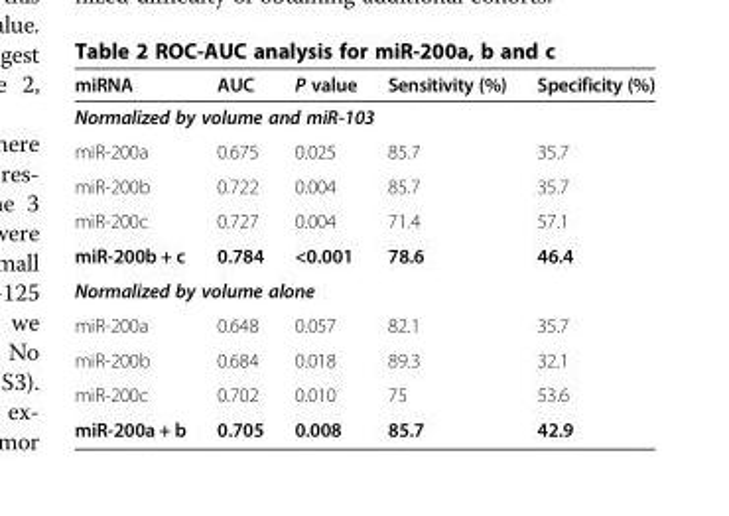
<table><thead><tr><td>miRNA</td><td>AUC</td><td>P value</td><td>Sensitivity (%)</td><td>Specificity (%)</td></tr></thead><tbody><tr><td colspan="5">Normalized by volume and miR-103</td></tr><tr><td>miR-200a</td><td>0.675</td><td>0.025</td><td>85.7</td><td>35.7</td></tr><tr><td>miR-200b</td><td>0.722</td><td>0.004</td><td>85.7</td><td>35.7</td></tr><tr><td>miR-200c</td><td>0.727</td><td>0.004</td><td>71.4</td><td>57.1</td></tr><tr><td>miR-200b + c</td><td>0.784</td><td>&lt;0.001</td><td>78.6</td><td>46.4</td></tr><tr><td colspan="5">Normalized by volume alone</td></tr><tr><td>miR-200a</td><td>0.648</td><td>0.057</td><td>82.1</td><td>35.7</td></tr><tr><td>miR-200b</td><td>0.684</td><td>0.018</td><td>89.3</td><td>32.1</td></tr><tr><td>miR-200c</td><td>0.702</td><td>0.010</td><td>75</td><td>53.6</td></tr><tr><td>miR-200a + b</td><td>0.705</td><td>0.008</td><td>85.7</td><td>42.9</td></tr></tbody></table>